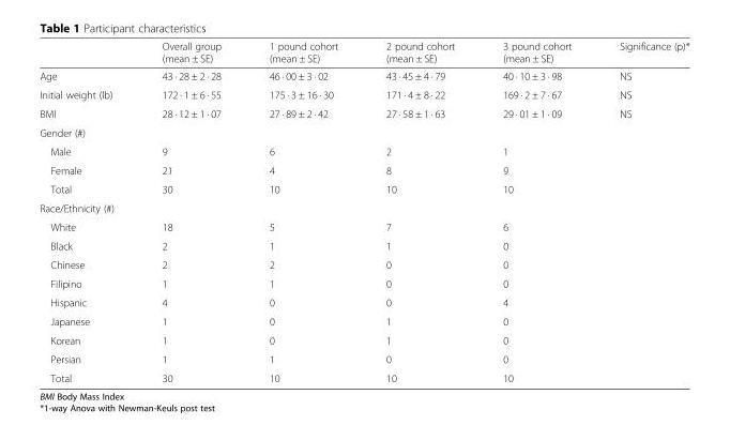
<table><thead><tr><td></td><td>Overall group (mean ± SE)</td><td>1 pound cohort (mean ± SE)</td><td>2 pound cohort (mean ± SE)</td><td>3 pound cohort (mean ± SE)</td><td>Significance (p)*</td></tr></thead><tbody><tr><td>Age</td><td>43 · 28 ± 2 · 28</td><td>46 · 00 ± 3 · 02</td><td>43 · 45 ± 4 · 79</td><td>40 · 10 ± 3 · 98</td><td>NS</td></tr><tr><td>Initial weight (lb)</td><td>172 · 1 ± 6 · 55</td><td>175 · 3 ± 16 · 30</td><td>171 · 4 ± 8 · 22</td><td>169 · 2 ± 7 · 67</td><td>NS</td></tr><tr><td>BMI</td><td>28 · 12 ± 1 · 07</td><td>27 · 89 ± 2 · 42</td><td>27 · 58 ± 1 · 63</td><td>29 · 01 ± 1 · 09</td><td>NS</td></tr><tr><td colspan="6">Gender (#)</td></tr><tr><td>Male</td><td>9</td><td>6</td><td>2</td><td>1</td><td></td></tr><tr><td>Female</td><td>21</td><td>4</td><td>8</td><td>9</td><td></td></tr><tr><td>Total</td><td>30</td><td>10</td><td>10</td><td>10</td><td></td></tr><tr><td colspan="6">Race/Ethnicity (#)</td></tr><tr><td>White</td><td>18</td><td>5</td><td>7</td><td>6</td><td></td></tr><tr><td>Black</td><td>2</td><td>1</td><td>1</td><td>0</td><td></td></tr><tr><td>Chinese</td><td>2</td><td>2</td><td>0</td><td>0</td><td></td></tr><tr><td>Filipino</td><td>1</td><td>1</td><td>0</td><td>0</td><td></td></tr><tr><td>Hispanic</td><td>4</td><td>0</td><td>0</td><td>4</td><td></td></tr><tr><td>Japanese</td><td>1</td><td>0</td><td>1</td><td>0</td><td></td></tr><tr><td>Korean</td><td>1</td><td>0</td><td>1</td><td>0</td><td></td></tr><tr><td>Persian</td><td>1</td><td>1</td><td>0</td><td>0</td><td></td></tr><tr><td>Total</td><td>30</td><td>10</td><td>10</td><td>10</td><td></td></tr></tbody></table>